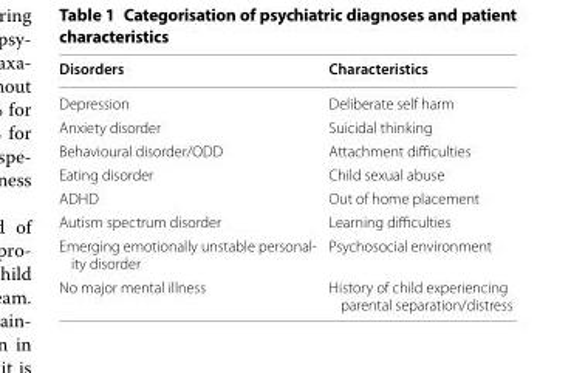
<table><thead><tr><td>Disorders</td><td>Characteristics</td></tr></thead><tbody><tr><td>Depression</td><td>Deliberate self harm</td></tr><tr><td>Anxiety disorder</td><td>Suicidal thinking</td></tr><tr><td>Behavioural disorder/ODD</td><td>Attachment difficulties</td></tr><tr><td>Eating disorder</td><td>Child sexual abuse</td></tr><tr><td>ADHD</td><td>Out of home placement</td></tr><tr><td>Autism spectrum disorder</td><td>Learning difficulties</td></tr><tr><td>Emerging emotionally unstable personal- ity disorder</td><td>Psychosocial environment</td></tr><tr><td>No major mental illness</td><td>History of child experiencing parental separation/distress</td></tr></tbody></table>